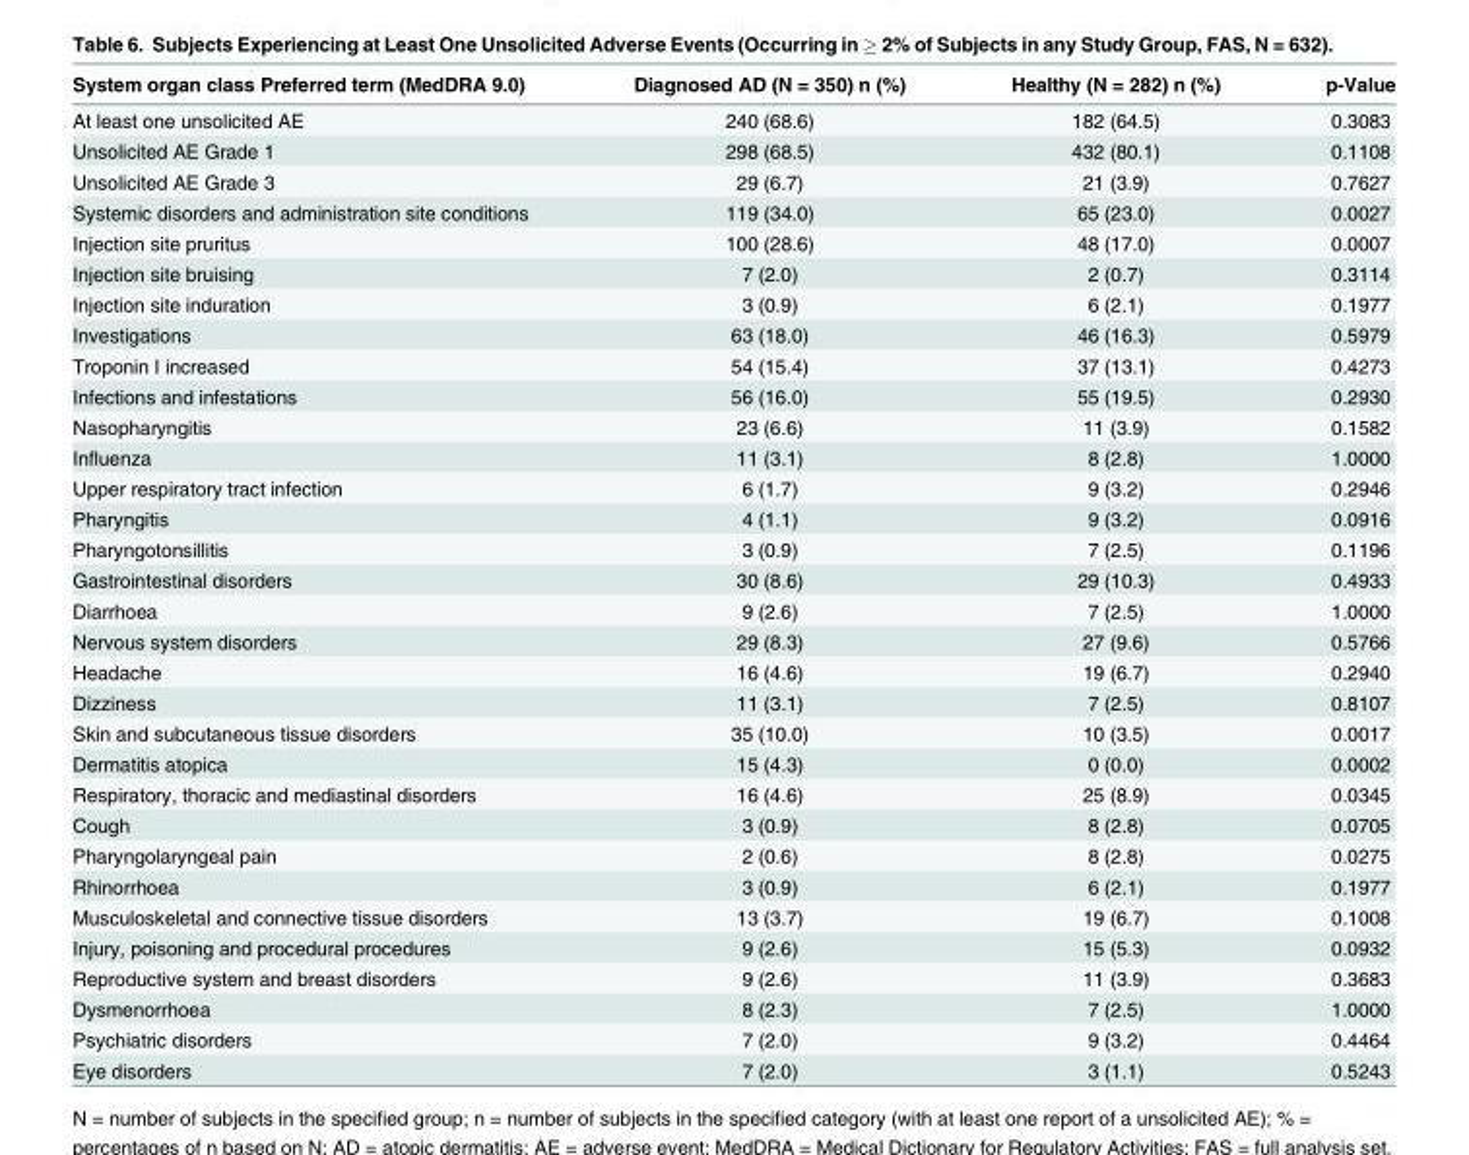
<table><thead><tr><td>System organ class Preferred term (MedDRA 9.0)</td><td>Diagnosed AD (N = 350) n (%)</td><td>Healthy (N = 282) n (%)</td><td>p-Value</td></tr></thead><tbody><tr><td>At least one unsolicited AE</td><td>240 (68.6)</td><td>182 (64.5)</td><td>0.3083</td></tr><tr><td>Unsolicited AE Grade 1</td><td>298 (68.5)</td><td>432 (80.1)</td><td>0.1108</td></tr><tr><td>Unsolicited AE Grade 3</td><td>29 (6.7)</td><td>21 (3.9)</td><td>0.7627</td></tr><tr><td>Systemic disorders and administration site conditions</td><td>119 (34.0)</td><td>65 (23.0)</td><td>0.0027</td></tr><tr><td>Injection site pruritus</td><td>100 (28.6)</td><td>48 (17.0)</td><td>0.0007</td></tr><tr><td>Injection site bruising</td><td>7 (2.0)</td><td>2 (0.7)</td><td>0.3114</td></tr><tr><td>Injection site induration</td><td>3 (0.9)</td><td>6 (2.1)</td><td>0.1977</td></tr><tr><td>Investigations</td><td>63 (18.0)</td><td>46 (16.3)</td><td>0.5979</td></tr><tr><td>Troponin I increased</td><td>54 (15.4)</td><td>37 (13.1)</td><td>0.4273</td></tr><tr><td>Infections and infestations</td><td>56 (16.0)</td><td>55 (19.5)</td><td>0.2930</td></tr><tr><td>Nasopharyngitis</td><td>23 (6.6)</td><td>11 (3.9)</td><td>0.1582</td></tr><tr><td>Influenza</td><td>11 (3.1)</td><td>8 (2.8)</td><td>1.0000</td></tr><tr><td>Upper respiratory tract infection</td><td>6 (1.7)</td><td>9 (3.2)</td><td>0.2946</td></tr><tr><td>Pharyngitis</td><td>4 (1.1)</td><td>9 (3.2)</td><td>0.0916</td></tr><tr><td>Pharyngotonsillitis</td><td>3 (0.9)</td><td>7 (2.5)</td><td>0.1196</td></tr><tr><td>Gastrointestinal disorders</td><td>30 (8.6)</td><td>29 (10.3)</td><td>0.4933</td></tr><tr><td>Diarrhoea</td><td>9 (2.6)</td><td>7 (2.5)</td><td>1.0000</td></tr><tr><td>Nervous system disorders</td><td>29 (8.3)</td><td>27 (9.6)</td><td>0.5766</td></tr><tr><td>Headache</td><td>16 (4.6)</td><td>19 (6.7)</td><td>0.2940</td></tr><tr><td>Dizziness</td><td>11 (3.1)</td><td>7 (2.5)</td><td>0.8107</td></tr><tr><td>Skin and subcutaneous tissue disorders</td><td>35 (10.0)</td><td>10 (3.5)</td><td>0.0017</td></tr><tr><td>Dermatitis atopica</td><td>15 (4.3)</td><td>0 (0.0)</td><td>0.0002</td></tr><tr><td>Respiratory, thoracic and mediastinal disorders</td><td>16 (4.6)</td><td>25 (8.9)</td><td>0.0345</td></tr><tr><td>Cough</td><td>3 (0.9)</td><td>8 (2.8)</td><td>0.0705</td></tr><tr><td>Pharyngolaryngeal pain</td><td>2 (0.6)</td><td>8 (2.8)</td><td>0.0275</td></tr><tr><td>Rhinorrhoea</td><td>3 (0.9)</td><td>6 (2.1)</td><td>0.1977</td></tr><tr><td>Musculoskeletal and connective tissue disorders</td><td>13 (3.7)</td><td>19 (6.7)</td><td>0.1008</td></tr><tr><td>Injury, poisoning and procedural procedures</td><td>9 (2.6)</td><td>15 (5.3)</td><td>0.0932</td></tr><tr><td>Reproductive system and breast disorders</td><td>9 (2.6)</td><td>11 (3.9)</td><td>0.3683</td></tr><tr><td>Dysmenorrhoea</td><td>8 (2.3)</td><td>7 (2.5)</td><td>1.0000</td></tr><tr><td>Psychiatric disorders</td><td>7 (2.0)</td><td>9 (3.2)</td><td>0.4464</td></tr><tr><td>Eye disorders</td><td>7 (2.0)</td><td>3 (1.1)</td><td>0.5243</td></tr></tbody></table>